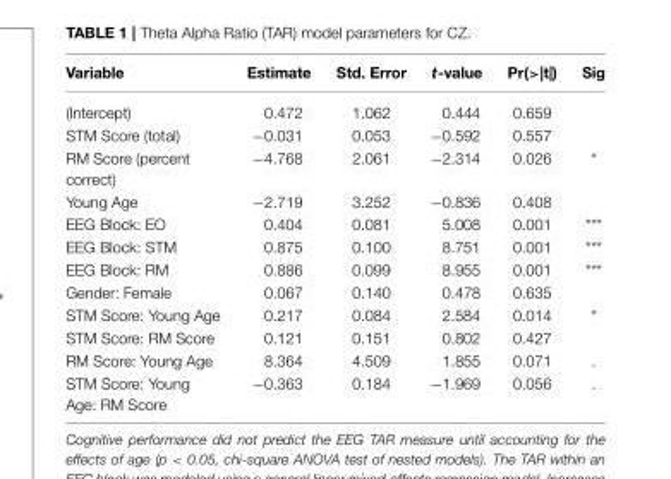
<table><thead><tr><td>Variable</td><td>Estimate</td><td>Std. Error</td><td>t-value</td><td>Pr(&gt;|t|)</td><td>Sig</td></tr></thead><tbody><tr><td>(Intercept)</td><td>0.472</td><td>1.062</td><td>0.444</td><td>0.659</td><td></td></tr><tr><td>STM Score (total)</td><td>−0.031</td><td>0.053</td><td>−0.592</td><td>0.557</td><td></td></tr><tr><td>RM Score (percent correct)</td><td>−4.768</td><td>2.061</td><td>−2.314</td><td>0.026</td><td>*</td></tr><tr><td>Young Age</td><td>−2.719</td><td>3.252</td><td>−0.836</td><td>0.408</td><td></td></tr><tr><td>EEG Block: EO</td><td>0.404</td><td>0.081</td><td>5.008</td><td>0.001</td><td>***</td></tr><tr><td>EEG Block: STM</td><td>0.875</td><td>0.100</td><td>8.751</td><td>0.001</td><td>***</td></tr><tr><td>EEG Block: RM</td><td>0.886</td><td>0.099</td><td>8.955</td><td>0.001</td><td>***</td></tr><tr><td>Gender: Female</td><td>0.067</td><td>0.140</td><td>0.478</td><td>0.635</td><td></td></tr><tr><td>STM Score: Young Age</td><td>0.217</td><td>0.084</td><td>2.584</td><td>0.014</td><td>*</td></tr><tr><td>STM Score: RM Score</td><td>0.121</td><td>0.151</td><td>0.802</td><td>0.427</td><td></td></tr><tr><td>RM Score: Young Age</td><td>8.364</td><td>4.509</td><td>1.855</td><td>0.071</td><td>.</td></tr><tr><td>STM Score: Young Age: RM Score</td><td>−0.363</td><td>0.184</td><td>−1.969</td><td>0.056</td><td>.</td></tr></tbody></table>